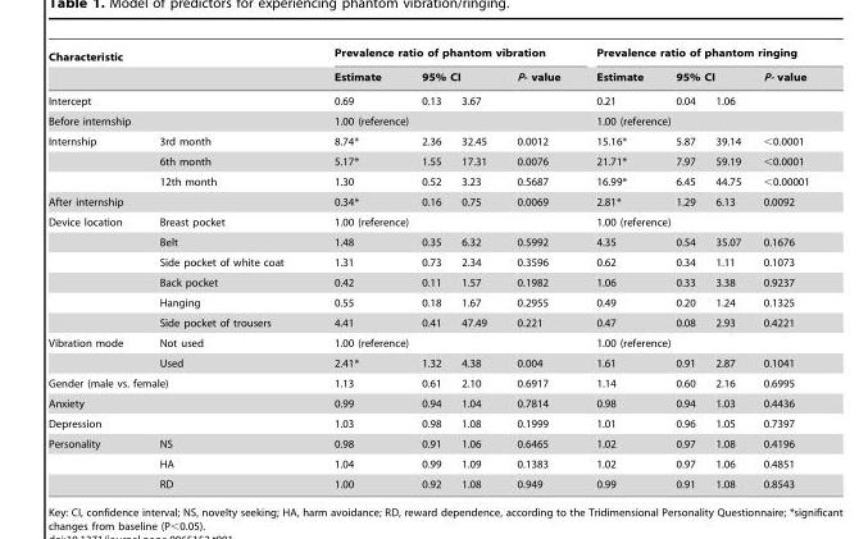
<table><thead><tr><td colspan="2">Characteristic</td><td colspan="4">Prevalence ratio of phantom vibration</td><td colspan="4">Prevalence ratio of phantom ringing</td></tr><tr><td></td><td></td><td rowspan="2">Estimate 0.69</td><td colspan="2">95% CI</td><td rowspan="2">P- value</td><td rowspan="2">Estimate 0.21</td><td colspan="2">95% CI</td><td rowspan="2">P- value</td></tr><tr><td colspan="2">Intercept</td><td>0.13</td><td>3.67</td><td>0.04</td><td>1.06</td></tr></thead><tbody><tr><td colspan="2">Before internship</td><td colspan="4">1.00 (reference)</td><td colspan="4">1.00 (reference)</td></tr><tr><td rowspan="3">Internship</td><td>3rd month</td><td>8.74*</td><td>2.36</td><td>32.45</td><td>0.0012</td><td>15.16*</td><td>5.87</td><td>39.14</td><td>&lt;0.0001</td></tr><tr><td>6th month</td><td>5.17*</td><td>1.55</td><td>17.31</td><td>0.0076</td><td>21.71*</td><td>7.97</td><td>59.19</td><td>&lt;0.0001</td></tr><tr><td>12th month</td><td>1.30</td><td>0.52</td><td>3.23</td><td>0.5687</td><td>16.99*</td><td>6.45</td><td>44.75</td><td>&lt;0.00001</td></tr><tr><td colspan="2">After internship</td><td>0.34*</td><td>0.16</td><td>0.75</td><td>0.0069</td><td>2.81*</td><td>1.29</td><td>6.13</td><td>0.0092</td></tr><tr><td rowspan="6">Device location</td><td>Breast pocket</td><td colspan="4">1.00 (reference)</td><td colspan="4">1.00 (reference)</td></tr><tr><td>Belt</td><td>1.48</td><td>0.35</td><td>6.32</td><td>0.5992</td><td>4.35</td><td>0.54</td><td>35.07</td><td>0.1676</td></tr><tr><td>Side pocket of white coat</td><td>1.31</td><td>0.73</td><td>2.34</td><td>0.3596</td><td>0.62</td><td>0.34</td><td>1.11</td><td>0.1073</td></tr><tr><td>Back pocket</td><td>0.42</td><td>0.11</td><td>1.57</td><td>0.1982</td><td>1.06</td><td>0.33</td><td>3.38</td><td>0.9237</td></tr><tr><td>Hanging</td><td>0.55</td><td>0.18</td><td>1.67</td><td>0.2955</td><td>0.49</td><td>0.20</td><td>1.24</td><td>0.1325</td></tr><tr><td>Side pocket of trousers</td><td>4.41</td><td>0.41</td><td>47.49</td><td>0.221</td><td>0.47</td><td>0.08</td><td>2.93</td><td>0.4221</td></tr><tr><td rowspan="2">Vibration mode</td><td>Not used</td><td colspan="4">1.00 (reference)</td><td colspan="4">1.00 (reference)</td></tr><tr><td>Used</td><td>2.41*</td><td>1.32</td><td>4.38</td><td>0.004</td><td>1.61</td><td>0.91</td><td>2.87</td><td>0.1041</td></tr><tr><td colspan="2">Gender (male vs. female)</td><td>1.13</td><td>0.61</td><td>2.10</td><td>0.6917</td><td>1.14</td><td>0.60</td><td>2.16</td><td>0.6995</td></tr><tr><td colspan="2">Anxiety</td><td>0.99</td><td>0.94</td><td>1.04</td><td>0.7814</td><td>0.98</td><td>0.94</td><td>1.03</td><td>0.4436</td></tr><tr><td colspan="2">Depression</td><td>1.03</td><td>0.98</td><td>1.08</td><td>0.1999</td><td>1.01</td><td>0.96</td><td>1.05</td><td>0.7397</td></tr><tr><td rowspan="3">Personality</td><td>NS</td><td>0.98</td><td>0.91</td><td>1.06</td><td>0.6465</td><td>1.02</td><td>0.97</td><td>1.08</td><td>0.4196</td></tr><tr><td>HA</td><td>1.04</td><td>0.99</td><td>1.09</td><td>0.1383</td><td>1.02</td><td>0.97</td><td>1.06</td><td>0.4851</td></tr><tr><td>RD</td><td>1.00</td><td>0.92</td><td>1.08</td><td>0.949</td><td>0.99</td><td>0.91</td><td>1.08</td><td>0.8543</td></tr></tbody></table>